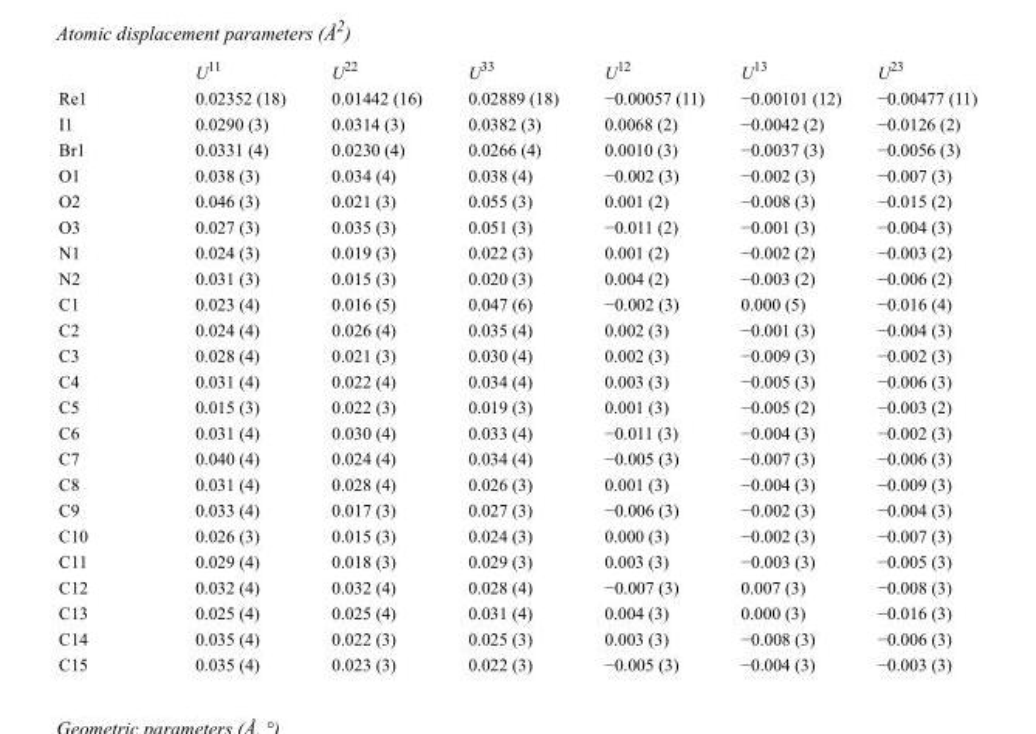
<table><thead><tr><td></td><td>U<sup>11</sup></td><td>U<sup>22</sup></td><td>U<sup>33</sup></td><td>U<sup>12</sup></td><td>U<sup>13</sup></td><td>U<sup>23</sup></td></tr></thead><tbody><tr><td>Re1</td><td>0.02352 (18)</td><td>0.01442 (16)</td><td>0.02889 (18)</td><td>−0.00057 (11)</td><td>−0.00101 (12)</td><td>−0.00477 (11)</td></tr><tr><td>I1</td><td>0.0290 (3)</td><td>0.0314 (3)</td><td>0.0382 (3)</td><td>0.0068 (2)</td><td>−0.0042 (2)</td><td>−0.0126 (2)</td></tr><tr><td>Br1</td><td>0.0331 (4)</td><td>0.0230 (4)</td><td>0.0266 (4)</td><td>0.0010 (3)</td><td>−0.0037 (3)</td><td>−0.0056 (3)</td></tr><tr><td>O1</td><td>0.038 (3)</td><td>0.034 (4)</td><td>0.038 (4)</td><td>−0.002 (3)</td><td>−0.002 (3)</td><td>−0.007 (3)</td></tr><tr><td>O2</td><td>0.046 (3)</td><td>0.021 (3)</td><td>0.055 (3)</td><td>0.001 (2)</td><td>−0.008 (3)</td><td>−0.015 (2)</td></tr><tr><td>O3</td><td>0.027 (3)</td><td>0.035 (3)</td><td>0.051 (3)</td><td>−0.011 (2)</td><td>−0.001 (3)</td><td>−0.004 (3)</td></tr><tr><td>N1</td><td>0.024 (3)</td><td>0.019 (3)</td><td>0.022 (3)</td><td>0.001 (2)</td><td>−0.002 (2)</td><td>−0.003 (2)</td></tr><tr><td>N2</td><td>0.031 (3)</td><td>0.015 (3)</td><td>0.020 (3)</td><td>0.004 (2)</td><td>−0.003 (2)</td><td>−0.006 (2)</td></tr><tr><td>C1</td><td>0.023 (4)</td><td>0.016 (5)</td><td>0.047 (6)</td><td>−0.002 (3)</td><td>0.000 (5)</td><td>−0.016 (4)</td></tr><tr><td>C2</td><td>0.024 (4)</td><td>0.026 (4)</td><td>0.035 (4)</td><td>0.002 (3)</td><td>−0.001 (3)</td><td>−0.004 (3)</td></tr><tr><td>C3</td><td>0.028 (4)</td><td>0.021 (3)</td><td>0.030 (4)</td><td>0.002 (3)</td><td>−0.009 (3)</td><td>−0.002 (3)</td></tr><tr><td>C4</td><td>0.031 (4)</td><td>0.022 (4)</td><td>0.034 (4)</td><td>0.003 (3)</td><td>−0.005 (3)</td><td>−0.006 (3)</td></tr><tr><td>C5</td><td>0.015 (3)</td><td>0.022 (3)</td><td>0.019 (3)</td><td>0.001 (3)</td><td>−0.005 (2)</td><td>−0.003 (2)</td></tr><tr><td>C6</td><td>0.031 (4)</td><td>0.030 (4)</td><td>0.033 (4)</td><td>−0.011 (3)</td><td>−0.004 (3)</td><td>−0.002 (3)</td></tr><tr><td>C7</td><td>0.040 (4)</td><td>0.024 (4)</td><td>0.034 (4)</td><td>−0.005 (3)</td><td>−0.007 (3)</td><td>−0.006 (3)</td></tr><tr><td>C8</td><td>0.031 (4)</td><td>0.028 (4)</td><td>0.026 (3)</td><td>0.001 (3)</td><td>−0.004 (3)</td><td>−0.009 (3)</td></tr><tr><td>C9</td><td>0.033 (4)</td><td>0.017 (3)</td><td>0.027 (3)</td><td>−0.006 (3)</td><td>−0.002 (3)</td><td>−0.004 (3)</td></tr><tr><td>C10</td><td>0.026 (3)</td><td>0.015 (3)</td><td>0.024 (3)</td><td>0.000 (3)</td><td>−0.002 (3)</td><td>−0.007 (3)</td></tr><tr><td>C11</td><td>0.029 (4)</td><td>0.018 (3)</td><td>0.029 (3)</td><td>0.003 (3)</td><td>−0.003 (3)</td><td>−0.005 (3)</td></tr><tr><td>C12</td><td>0.032 (4)</td><td>0.032 (4)</td><td>0.028 (4)</td><td>−0.007 (3)</td><td>0.007 (3)</td><td>−0.008 (3)</td></tr><tr><td>C13</td><td>0.025 (4)</td><td>0.025 (4)</td><td>0.031 (4)</td><td>0.004 (3)</td><td>0.000 (3)</td><td>−0.016 (3)</td></tr><tr><td>C14</td><td>0.035 (4)</td><td>0.022 (3)</td><td>0.025 (3)</td><td>0.003 (3)</td><td>−0.008 (3)</td><td>−0.006 (3)</td></tr><tr><td>C15</td><td>0.035 (4)</td><td>0.023 (3)</td><td>0.022 (3)</td><td>−0.005 (3)</td><td>−0.004 (3)</td><td>−0.003 (3)</td></tr></tbody></table>